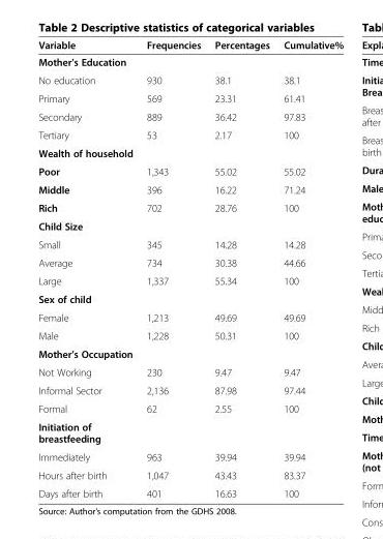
<table><thead><tr><td>Variable</td><td>Frequencies</td><td>Percentages</td><td>Cumulative%</td></tr></thead><tbody><tr><td colspan="4">Mother’s Education</td></tr><tr><td>No education</td><td>930</td><td>38.1</td><td>38.1</td></tr><tr><td>Primary</td><td>569</td><td>23.31</td><td>61.41</td></tr><tr><td>Secondary</td><td>889</td><td>36.42</td><td>97.83</td></tr><tr><td>Tertiary</td><td>53</td><td>2.17</td><td>100</td></tr><tr><td colspan="4">Wealth of household</td></tr><tr><td>Poor</td><td>1,343</td><td>55.02</td><td>55.02</td></tr><tr><td>Middle</td><td>396</td><td>16.22</td><td>71.24</td></tr><tr><td>Rich</td><td>702</td><td>28.76</td><td>100</td></tr><tr><td colspan="4">Child Size</td></tr><tr><td>Small</td><td>345</td><td>14.28</td><td>14.28</td></tr><tr><td>Average</td><td>734</td><td>30.38</td><td>44.66</td></tr><tr><td>Large</td><td>1,337</td><td>55.34</td><td>100</td></tr><tr><td colspan="4">Sex of child</td></tr><tr><td>Female</td><td>1,213</td><td>49.69</td><td>49.69</td></tr><tr><td>Male</td><td>1,228</td><td>50.31</td><td>100</td></tr><tr><td colspan="4">Mother’s Occupation</td></tr><tr><td>Not Working</td><td>230</td><td>9.47</td><td>9.47</td></tr><tr><td>Informal Sector</td><td>2,136</td><td>87.98</td><td>97.44</td></tr><tr><td>Formal</td><td>62</td><td>2.55</td><td>100</td></tr><tr><td colspan="4">Initiation of breastfeeding</td></tr><tr><td>Immediately</td><td>963</td><td>39.94</td><td>39.94</td></tr><tr><td>Hours after birth</td><td>1,047</td><td>43.43</td><td>83.37</td></tr><tr><td>Days after birth</td><td>401</td><td>16.63</td><td>100</td></tr></tbody></table>